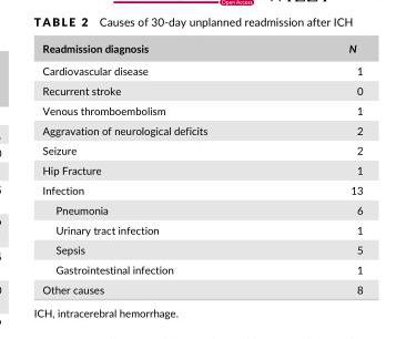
<table><thead><tr><td>Readmissiondiagnosis</td><td>N</td></tr></thead><tbody><tr><td>Cardiovascular disease</td><td>1</td></tr><tr><td>Recurrent stroke</td><td>0</td></tr><tr><td>Venous thromboembolism</td><td>1</td></tr><tr><td>Aggravation of neurological deficits</td><td>2</td></tr><tr><td>Seizure</td><td>2</td></tr><tr><td>Hip Fracture</td><td>1</td></tr><tr><td>Infection</td><td>13</td></tr><tr><td>Pneumonia</td><td>6</td></tr><tr><td>Urinary tract infection</td><td>1</td></tr><tr><td>Sepsis</td><td>5</td></tr><tr><td>Gastrointestinal infection</td><td>1</td></tr><tr><td>Other causes</td><td>8</td></tr></tbody></table>